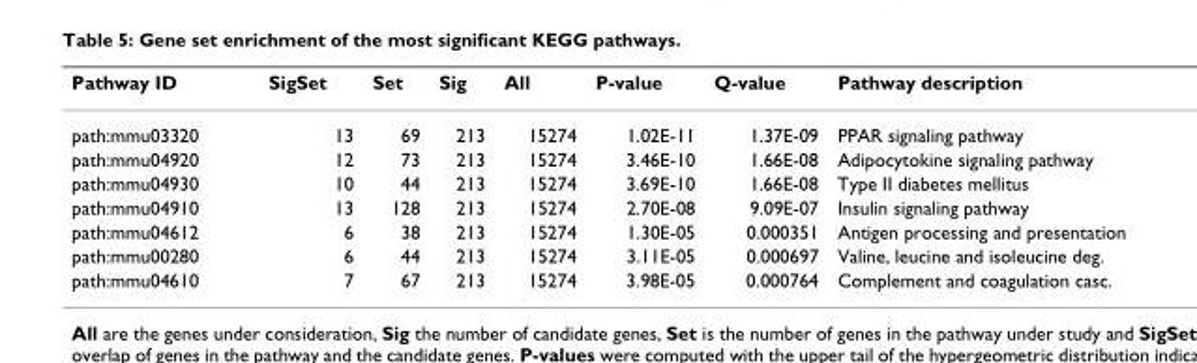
<table><thead><tr><td>Pathway ID</td><td>SigSet</td><td>Set</td><td>Sig</td><td>All</td><td>P-value</td><td>Q-value</td><td>Pathway description</td></tr></thead><tbody><tr><td>path:mmu03320</td><td>13</td><td>69</td><td>213</td><td>15274</td><td>1.02E-11</td><td>1.37E-09</td><td>PPAR signaling pathway</td></tr><tr><td>path:mmu04920</td><td>12</td><td>73</td><td>213</td><td>15274</td><td>3.46E-10</td><td>1.66E-08</td><td>Adipocytokine signaling pathway</td></tr><tr><td>path:mmu04930</td><td>10</td><td>44</td><td>213</td><td>15274</td><td>3.69E-10</td><td>1.66E-08</td><td>Type II diabetes mellitus</td></tr><tr><td>path:mmu04910</td><td>13</td><td>128</td><td>213</td><td>15274</td><td>2.70E-08</td><td>9.09E-07</td><td>Insulin signaling pathway</td></tr><tr><td>path:mmu04612</td><td>6</td><td>38</td><td>213</td><td>15274</td><td>1.30E-05</td><td>0.000351</td><td>Antigen processing and presentation</td></tr><tr><td>path:mmu00280</td><td>6</td><td>44</td><td>213</td><td>15274</td><td>3.11E-05</td><td>0.000697</td><td>Valine, leucine and isoleucine deg.</td></tr><tr><td>path:mmu04610</td><td>7</td><td>67</td><td>213</td><td>15274</td><td>3.98E-05</td><td>0.000764</td><td>Complement and coagulation casc.</td></tr></tbody></table>